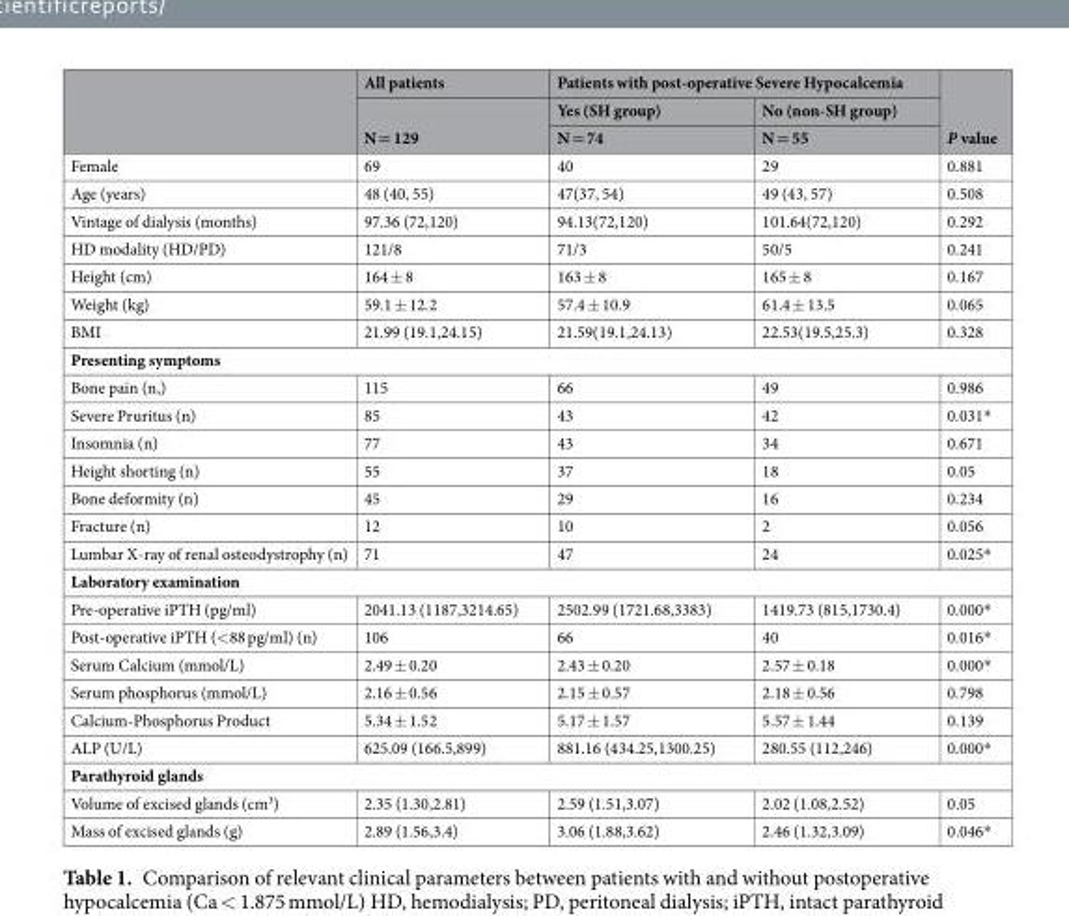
<table><thead><tr><td rowspan="3"></td><td rowspan="3">All patients N = 129</td><td colspan="2">Patients with post-operative Severe Hypocalcemia</td><td rowspan="3">P value</td></tr><tr><td rowspan="2">Yes (SH group) N = 74</td><td rowspan="2">No (non-SH group) N = 55</td></tr><tr></tr></thead><tbody><tr><td>Female</td><td>69</td><td>40</td><td>29</td><td>0.881</td></tr><tr><td>Age (years)</td><td>48 (40, 55)</td><td>47(37, 54)</td><td>49 (43, 57)</td><td>0.508</td></tr><tr><td>Vintage of dialysis (months)</td><td>97.36 (72,120)</td><td>94.13(72,120)</td><td>101.64(72,120)</td><td>0.292</td></tr><tr><td>HD modality (HD/PD)</td><td>121/8</td><td>71/3</td><td>50/5</td><td>0.241</td></tr><tr><td>Height (cm)</td><td>164 ± 8</td><td>163 ± 8</td><td>165 ± 8</td><td>0.167</td></tr><tr><td>Weight (kg)</td><td>59.1 ± 12.2</td><td>57.4 ± 10.9</td><td>61.4 ± 13.5</td><td>0.065</td></tr><tr><td>BMI</td><td>21.99 (19.1,24.15)</td><td>21.59(19.1,24.13)</td><td>22.53(19.5,25.3)</td><td>0.328</td></tr><tr><td colspan="5">Presenting symptoms</td></tr><tr><td>Bone pain (n,)</td><td>115</td><td>66</td><td>49</td><td>0.986</td></tr><tr><td>Severe Pruritus (n)</td><td>85</td><td>43</td><td>42</td><td>0.031*</td></tr><tr><td>Insomnia (n)</td><td>77</td><td>43</td><td>34</td><td>0.671</td></tr><tr><td>Height shorting (n)</td><td>55</td><td>37</td><td>18</td><td>0.05</td></tr><tr><td>Bone deformity (n)</td><td>45</td><td>29</td><td>16</td><td>0.234</td></tr><tr><td>Fracture (n)</td><td>12</td><td>10</td><td>2</td><td>0.056</td></tr><tr><td>Lumbar X-ray of renal osteodystrophy (n)</td><td>71</td><td>47</td><td>24</td><td>0.025*</td></tr><tr><td colspan="5">Laboratory examination</td></tr><tr><td>Pre-operative iPTH (pg/ml)</td><td>2041.13 (1187,3214.65)</td><td>2502.99 (1721.68,3383)</td><td>1419.73 (815,1730.4)</td><td>0.000*</td></tr><tr><td>Post-operative iPTH (&lt;88 pg/ml) (n)</td><td>106</td><td>66</td><td>40</td><td>0.016*</td></tr><tr><td>Serum Calcium (mmol/L)</td><td>2.49 ± 0.20</td><td>2.43 ± 0.20</td><td>2.57 ± 0.18</td><td>0.000*</td></tr><tr><td>Serum phosphorus (mmol/L)</td><td>2.16 ± 0.56</td><td>2.15 ± 0.57</td><td>2.18 ± 0.56</td><td>0.798</td></tr><tr><td>Calcium-Phosphorus Product</td><td>5.34 ± 1.52</td><td>5.17 ± 1.57</td><td>5.57 ± 1.44</td><td>0.139</td></tr><tr><td>ALP (U/L)</td><td>625.09 (166.5,899)</td><td>881.16 (434.25,1300.25)</td><td>280.55 (112,246)</td><td>0.000*</td></tr><tr><td colspan="5">Parathyroid glands</td></tr><tr><td>Volume of excised glands (cm<sup>3</sup>)</td><td>2.35 (1.30,2.81)</td><td>2.59 (1.51,3.07)</td><td>2.02 (1.08,2.52)</td><td>0.05</td></tr><tr><td>Mass of excised glands (g)</td><td>2.89 (1.56,3.4)</td><td>3.06 (1.88,3.62)</td><td>2.46 (1.32,3.09)</td><td>0.046*</td></tr></tbody></table>